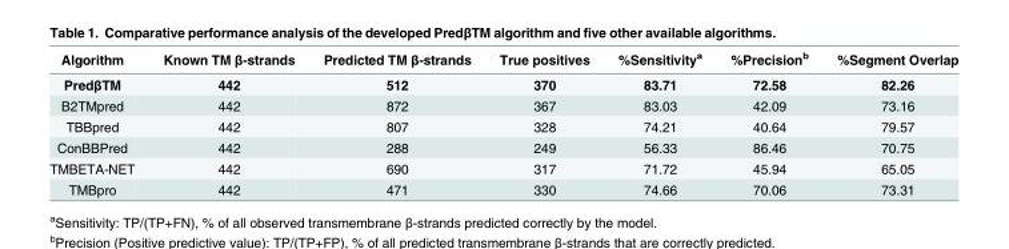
<table><thead><tr><td>Algorithm</td><td>Known TM β-strands</td><td>Predicted TM β-strands</td><td>True positives</td><td>%Sensitivity<sup>a</sup></td><td>%Precision<sup>b</sup></td><td>%Segment Overlap</td></tr></thead><tbody><tr><td>PredβTM</td><td>442</td><td>512</td><td>370</td><td>83.71</td><td>72.58</td><td>82.26</td></tr><tr><td>B2TMpred</td><td>442</td><td>872</td><td>367</td><td>83.03</td><td>42.09</td><td>73.16</td></tr><tr><td>TBBpred</td><td>442</td><td>807</td><td>328</td><td>74.21</td><td>40.64</td><td>79.57</td></tr><tr><td>ConBBPred</td><td>442</td><td>288</td><td>249</td><td>56.33</td><td>86.46</td><td>70.75</td></tr><tr><td>TMBETA-NET</td><td>442</td><td>690</td><td>317</td><td>71.72</td><td>45.94</td><td>65.05</td></tr><tr><td>TMBpro</td><td>442</td><td>471</td><td>330</td><td>74.66</td><td>70.06</td><td>73.31</td></tr></tbody></table>